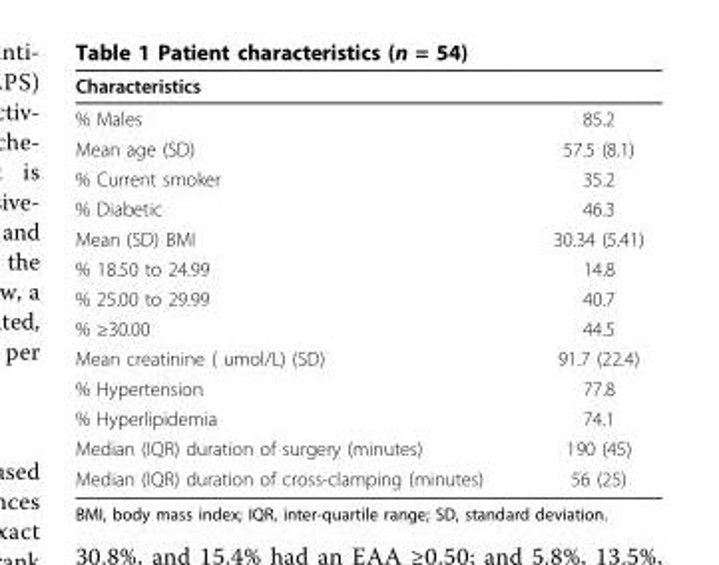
<table><thead><tr><td>Characteristics</td><td></td></tr></thead><tbody><tr><td>% Males</td><td>85.2</td></tr><tr><td>Mean age (SD)</td><td>57.5 (8.1)</td></tr><tr><td>% Current smoker</td><td>35.2</td></tr><tr><td>% Diabetic</td><td>46.3</td></tr><tr><td>Mean (SD) BMI</td><td>30.34 (5.41)</td></tr><tr><td>% 18.50 to 24.99</td><td>14.8</td></tr><tr><td>% 25.00 to 29.99</td><td>40.7</td></tr><tr><td>% ≥30.00</td><td>44.5</td></tr><tr><td>Mean creatinine ( umol/L) (SD)</td><td>91.7 (22.4)</td></tr><tr><td>% Hypertension</td><td>77.8</td></tr><tr><td>% Hyperlipidemia</td><td>74.1</td></tr><tr><td>Median (IQR) duration of surgery (minutes)</td><td>190 (45)</td></tr><tr><td>Median (IQR) duration of cross-clamping (minutes)</td><td>56 (25)</td></tr></tbody></table>